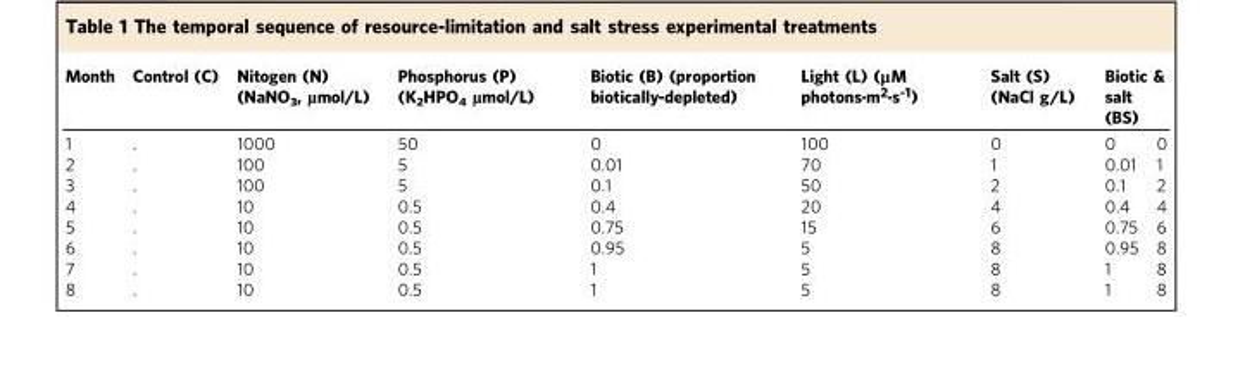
<table><thead><tr><td rowspan="2">Month 1</td><td rowspan="2">Control (C) .</td><td rowspan="2">Nitogen (N) (NaNO<sub>3</sub>, µmol/L) 1000</td><td rowspan="2">Phosphorus (P) (K<sub>2</sub>HPO<sub>4</sub> µmol/L) 50</td><td rowspan="2">Biotic (B) (proportion biotically-depleted) 0</td><td rowspan="2">Light (L) (μM photons·m<sup>2</sup>·s<sup>-1</sup>) 100</td><td rowspan="2">Salt (S) (NaCl g/L) 0</td><td colspan="2">Biotic &amp; salt (BS)</td></tr><tr><td>0</td><td>0</td></tr></thead><tbody><tr><td>2</td><td>.</td><td>100</td><td>5</td><td>0.01</td><td>70</td><td>1</td><td>0.01</td><td>1</td></tr><tr><td>3</td><td>.</td><td>100</td><td>5</td><td>0.1</td><td>50</td><td>2</td><td>0.1</td><td>2</td></tr><tr><td>4</td><td>.</td><td>10</td><td>0.5</td><td>0.4</td><td>20</td><td>4</td><td>0.4</td><td>4</td></tr><tr><td>5</td><td>.</td><td>10</td><td>0.5</td><td>0.75</td><td>15</td><td>6</td><td>0.75</td><td>6</td></tr><tr><td>6</td><td>.</td><td>10</td><td>0.5</td><td>0.95</td><td>5</td><td>8</td><td>0.95</td><td>8</td></tr><tr><td>7</td><td>.</td><td>10</td><td>0.5</td><td>1</td><td>5</td><td>8</td><td>1</td><td>8</td></tr><tr><td>8</td><td>.</td><td>10</td><td>0.5</td><td>1</td><td>5</td><td>8</td><td>1</td><td>8</td></tr></tbody></table>